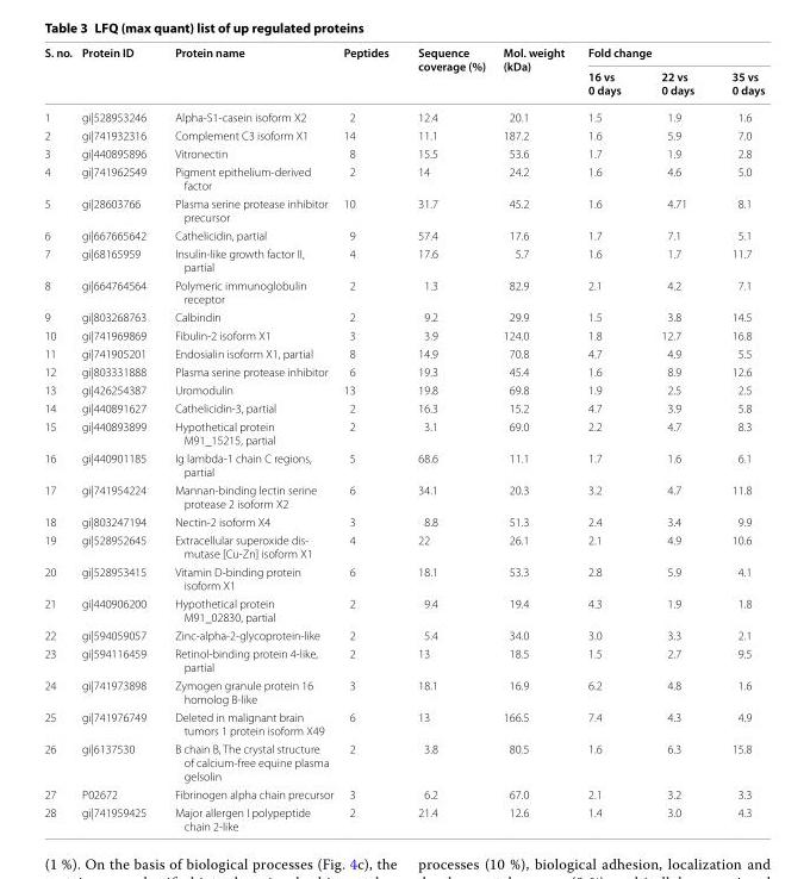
<table><thead><tr><td rowspan="2">S. no.</td><td rowspan="2">Protein ID</td><td rowspan="2">Protein name</td><td rowspan="2">Peptides</td><td rowspan="2">Sequence coverage (%)</td><td rowspan="2">Mol. weight (kDa)</td><td colspan="3">Fold change</td></tr><tr><td>16 vs 0 days</td><td>22 vs 0 days</td><td>35 vs 0 days</td></tr></thead><tbody><tr><td>1</td><td>gi|528953246</td><td>Alpha-S1-casein isoform X2</td><td>2</td><td>12.4</td><td>20.1</td><td>1.5</td><td>1.9</td><td>1.6</td></tr><tr><td>2</td><td>gi|741932316</td><td>Complement C3 isoform X1</td><td>14</td><td>11.1</td><td>187.2</td><td>1.6</td><td>5.9</td><td>7.0</td></tr><tr><td>3</td><td>gi|440895896</td><td>Vitronectin</td><td>8</td><td>15.5</td><td>53.6</td><td>1.7</td><td>1.9</td><td>2.8</td></tr><tr><td>4</td><td>gi|741962549</td><td>Pigment epithelium-derived factor</td><td>2</td><td>14</td><td>24.2</td><td>1.6</td><td>4.6</td><td>5.0</td></tr><tr><td>5</td><td>gi|28603766</td><td>Plasma serine protease inhibitor precursor</td><td>10</td><td>31.7</td><td>45.2</td><td>1.6</td><td>4.71</td><td>8.1</td></tr><tr><td>6</td><td>gi|667665642</td><td>Cathelicidin, partial</td><td>9</td><td>57.4</td><td>17.6</td><td>1.7</td><td>7.1</td><td>5.1</td></tr><tr><td>7</td><td>gi|68165959</td><td>Insulin-like growth factor II, partial</td><td>4</td><td>17.6</td><td>5.7</td><td>1.6</td><td>1.7</td><td>11.7</td></tr><tr><td>8</td><td>gi|664764564</td><td>Polymeric immunoglobulin receptor</td><td>2</td><td>1.3</td><td>82.9</td><td>2.1</td><td>4.2</td><td>7.1</td></tr><tr><td>9</td><td>gi|803268763</td><td>Calbindin</td><td>2</td><td>9.2</td><td>29.9</td><td>1.5</td><td>3.8</td><td>14.5</td></tr><tr><td>10</td><td>gi|741969869</td><td>Fibulin-2 isoform X1</td><td>3</td><td>3.9</td><td>124.0</td><td>1.8</td><td>12.7</td><td>16.8</td></tr><tr><td>11</td><td>gi|741905201</td><td>Endosialin isoform X1, partial</td><td>8</td><td>14.9</td><td>70.8</td><td>4.7</td><td>4.9</td><td>5.5</td></tr><tr><td>12</td><td>gi|803331888</td><td>Plasma serine protease inhibitor</td><td>6</td><td>19.3</td><td>45.4</td><td>1.6</td><td>8.9</td><td>12.6</td></tr><tr><td>13</td><td>gi|426254387</td><td>Uromodulin</td><td>13</td><td>19.8</td><td>69.8</td><td>1.9</td><td>2.5</td><td>2.5</td></tr><tr><td>14</td><td>gi|440891627</td><td>Cathelicidin-3, partial</td><td>2</td><td>16.3</td><td>15.2</td><td>4.7</td><td>3.9</td><td>5.8</td></tr><tr><td>15</td><td>gi|440893899</td><td>Hypothetical protein M91_15215, partial</td><td>2</td><td>3.1</td><td>69.0</td><td>2.2</td><td>4.7</td><td>8.3</td></tr><tr><td>16</td><td>gi|440901185</td><td>Ig lambda-1 chain C regions, partial</td><td>5</td><td>68.6</td><td>11.1</td><td>1.7</td><td>1.6</td><td>6.1</td></tr><tr><td>17</td><td>gi|741954224</td><td>Mannan-binding lectin serine protease 2 isoform X2</td><td>6</td><td>34.1</td><td>20.3</td><td>3.2</td><td>4.7</td><td>11.8</td></tr><tr><td>18</td><td>gi|803247194</td><td>Nectin-2 isoform X4</td><td>3</td><td>8.8</td><td>51.3</td><td>2.4</td><td>3.4</td><td>9.9</td></tr><tr><td>19</td><td>gi|528952645</td><td>Extracellular superoxide dis- mutase [Cu-Zn] isoform X1</td><td>4</td><td>22</td><td>26.1</td><td>2.1</td><td>4.9</td><td>10.6</td></tr><tr><td>20</td><td>gi|528953415</td><td>Vitamin D-binding protein isoform X1</td><td>6</td><td>18.1</td><td>53.3</td><td>2.8</td><td>5.9</td><td>4.1</td></tr><tr><td>21</td><td>gi|440906200</td><td>Hypothetical protein M91_02830, partial</td><td>2</td><td>9.4</td><td>19.4</td><td>4.3</td><td>1.9</td><td>1.8</td></tr><tr><td>22</td><td>gi|594059057</td><td>Zinc-alpha-2-glycoprotein-like</td><td>2</td><td>5.4</td><td>34.0</td><td>3.0</td><td>3.3</td><td>2.1</td></tr><tr><td>23</td><td>gi|594116459</td><td>Retinol-binding protein 4-like, partial</td><td>2</td><td>13</td><td>18.5</td><td>1.5</td><td>2.7</td><td>9.5</td></tr><tr><td>24</td><td>gi|741973898</td><td>Zymogen granule protein 16 homolog B-like</td><td>3</td><td>18.1</td><td>16.9</td><td>6.2</td><td>4.8</td><td>1.6</td></tr><tr><td>25</td><td>gi|741976749</td><td>Deleted in malignant brain tumors 1 protein isoform X49</td><td>6</td><td>13</td><td>166.5</td><td>7.4</td><td>4.3</td><td>4.9</td></tr><tr><td>26</td><td>gi|6137530</td><td>B chain B, The crystal structure of calcium-free equine plasma gelsolin</td><td>2</td><td>3.8</td><td>80.5</td><td>1.6</td><td>6.3</td><td>15.8</td></tr><tr><td>27</td><td>P02672</td><td>Fibrinogen alpha chain precursor</td><td>3</td><td>6.2</td><td>67.0</td><td>2.1</td><td>3.2</td><td>3.3</td></tr><tr><td>28</td><td>gi|741959425</td><td>Major allergen I polypeptide chain 2-like</td><td>2</td><td>21.4</td><td>12.6</td><td>1.4</td><td>3.0</td><td>4.3</td></tr></tbody></table>